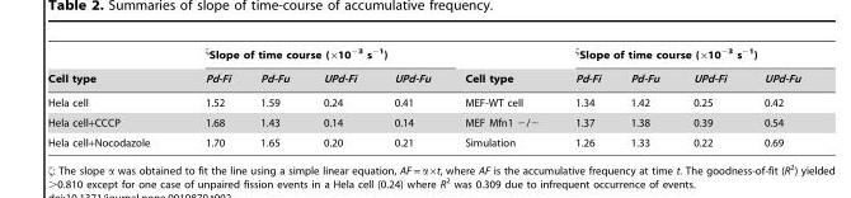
<table><thead><tr><td rowspan="2">Cell type</td><td colspan="4"><sup>ζ</sup>Slope of time course (×10<sup>−3</sup> s<sup>−1</sup>)</td><td rowspan="2">Cell type</td><td colspan="4"><sup>ζ</sup>Slope of time course (×10<sup>−3</sup> s<sup>−1</sup>)</td></tr><tr><td>Pd-Fi</td><td>Pd-Fu</td><td>UPd-Fi</td><td>UPd-Fu</td><td>Pd-Fi</td><td>Pd-Fu</td><td>UPd-Fi</td><td>UPd-Fu</td></tr></thead><tbody><tr><td>Hela cell</td><td>1.52</td><td>1.59</td><td>0.24</td><td>0.41</td><td>MEF-WT cell</td><td>1.34</td><td>1.42</td><td>0.25</td><td>0.42</td></tr><tr><td>Hela cell+CCCP</td><td>1.68</td><td>1.43</td><td>0.14</td><td>0.14</td><td>MEF Mfn1 −/−</td><td>1.37</td><td>1.38</td><td>0.39</td><td>0.54</td></tr><tr><td>Hela cell+Nocodazole</td><td>1.70</td><td>1.65</td><td>0.20</td><td>0.21</td><td>Simulation</td><td>1.26</td><td>1.33</td><td>0.22</td><td>0.69</td></tr></tbody></table>